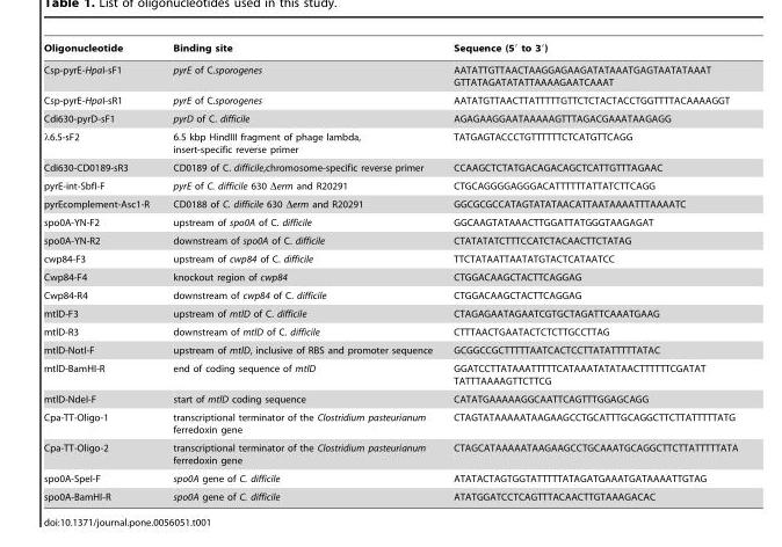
<table><thead><tr><td>Oligonucleotide</td><td>Binding site</td><td>Sequence (5′ to 3′)</td></tr></thead><tbody><tr><td>Csp-pyrE-HpaI-sF1</td><td>pyrE of C.sporogenes</td><td>AATATTGTTAACTAAGGAGAAGATATAAATGAGTAATATAAAT GTTATAGATATATTAAAAGAATCAAAT</td></tr><tr><td>Csp-pyrE-HpaI-sR1</td><td>pyrE of C.sporogenes</td><td>AATATGTTAACTTATTTTTGTTCTCTACTACCTGGTTTTACAAAAGGT</td></tr><tr><td>Cdi630-pyrD-sF1</td><td>pyrD of C. difficile</td><td>AGAGAAGGAATAAAAAGTTTAGACGAAATAAGAGG</td></tr><tr><td>λ6.5-sF2</td><td>6.5 kbp HindIII fragment of phage lambda, insert-specific reverse primer</td><td>TATGAGTACCCTGTTTTTTCTCATGTTCAGG</td></tr><tr><td>Cdi630-CD0189-sR3</td><td>CD0189 of C. difficile,chromosome-specific reverse primer</td><td>CCAAGCTCTATGACAGACAGCTCATTGTTTAGAAC</td></tr><tr><td>pyrE-int-SbfI-F</td><td>pyrE of C. difficile 630 Δerm and R20291</td><td>CTGCAGGGGAGGGACATTTTTTATTATCTTCAGG</td></tr><tr><td>pyrEcomplement-Asc1-R</td><td>CD0188 of C. difficile 630 Δerm and R20291</td><td>GGCGCGCCATAGTATATAACATTAATAAAATTTAAAATC</td></tr><tr><td>spo0A-YN-F2</td><td>upstream of spo0A of C. difficile</td><td>GGCAAGTATAAACTTGGATTATGGGTAAGAGAT</td></tr><tr><td>spo0A-YN-R2</td><td>downstream of spo0A of C. difficile</td><td>CTATATATCTTTCCATCTACAACTTCTATAG</td></tr><tr><td>cwp84-F3</td><td>upstream of cwp84 of C. difficile</td><td>TTCTATAATTAATATGTACTCATAATCC</td></tr><tr><td>Cwp84-F4</td><td>knockout region of cwp84</td><td>CTGGACAAGCTACTTCAGGAG</td></tr><tr><td>Cwp84-R4</td><td>downstream of cwp84 of C. difficile</td><td>CTGGACAAGCTACTTCAGGAG</td></tr><tr><td>mtlD-F3</td><td>upstream of mtlD of C. difficile</td><td>CTAGAGAATAGAATCGTGCTAGATTCAAATGAAG</td></tr><tr><td>mtlD-R3</td><td>downstream of mtlD of C. difficile</td><td>CTTTAACTGAATACTCTCTTGCCTTAG</td></tr><tr><td>mtlD-NotI-F</td><td>upstream of mtlD, inclusive of RBS and promoter sequence</td><td>GCGGCCGCTTTTTAATCACTCCTTATATTTTTATAC</td></tr><tr><td>mtlD-BamHI-R</td><td>end of coding sequence of mtlD</td><td>GGATCCTTATAAATTTTTCATAAATATATAACTTTTTTCGATAT TATTTAAAAGTTCTTCG</td></tr><tr><td>mtlD-NdeI-F</td><td>start of mtlD coding sequence</td><td>CATATGAAAAAGGCAATTCAGTTTGGAGCAGG</td></tr><tr><td>Cpa-TT-Oligo-1</td><td>transcriptional terminator of the Clostridium pasteurianum ferredoxin gene</td><td>CTAGTATAAAAATAAGAAGCCTGCATTTGCAGGCTTCTTATTTTTATG</td></tr><tr><td>Cpa-TT-Oligo-2</td><td>transcriptional terminator of the Clostridium pasteurianum ferredoxin gene</td><td>CTAGCATAAAAATAAGAAGCCTGCAAATGCAGGCTTCTTATTTTTATA</td></tr><tr><td>spo0A-SpeI-F</td><td>spo0A gene of C. difficile</td><td>ATATACTAGTGGTATTTTTATAGATGAAATGATAAAATTGTAG</td></tr><tr><td>spo0A-BamHI-R</td><td>spo0A gene of C. difficile</td><td>ATATGGATCCTCAGTTTACAACTTGTAAAGACAC</td></tr></tbody></table>